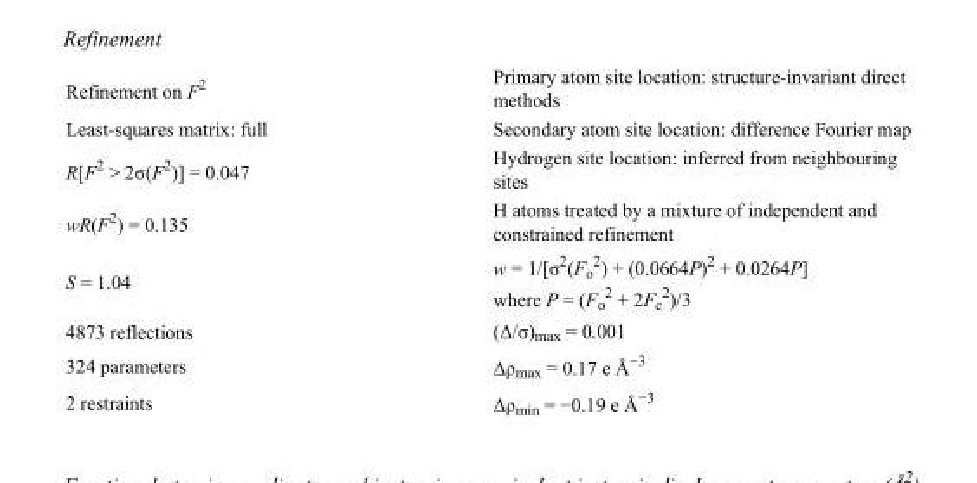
<table><tbody><tr><td>Refinement on F<sup>2</sup></td><td>Primary atom site location: structure-invariant direct methods</td></tr><tr><td>Least-squares matrix: full</td><td>Secondary atom site location: difference Fourier map</td></tr><tr><td>R[F<sup>2</sup> &gt; 2σ(F<sup>2</sup>)] = 0.047</td><td>Hydrogen site location: inferred from neighbouring sites</td></tr><tr><td>wR(F<sup>2</sup>) = 0.135</td><td>H atoms treated by a mixture of independent and constrained refinement</td></tr><tr><td>S = 1.04</td><td>w = 1/[σ<sup>2</sup>(F<sub>o</sub> <sup>2</sup>) + (0.0664P)<sup>2</sup> + 0.0264P] where P = (F<sub>o</sub> <sup>2</sup> + 2F<sub>c</sub> <sup>2</sup>)/3</td></tr><tr><td>4873 reflections</td><td>(Δ/σ)<sub>max</sub> = 0.001</td></tr><tr><td>324 parameters</td><td>Δρ<sub>max</sub> = 0.17 e Å<sup>−3</sup></td></tr><tr><td>2 restraints</td><td>Δρ<sub>min</sub> = −0.19 e Å<sup>−3</sup></td></tr></tbody></table>